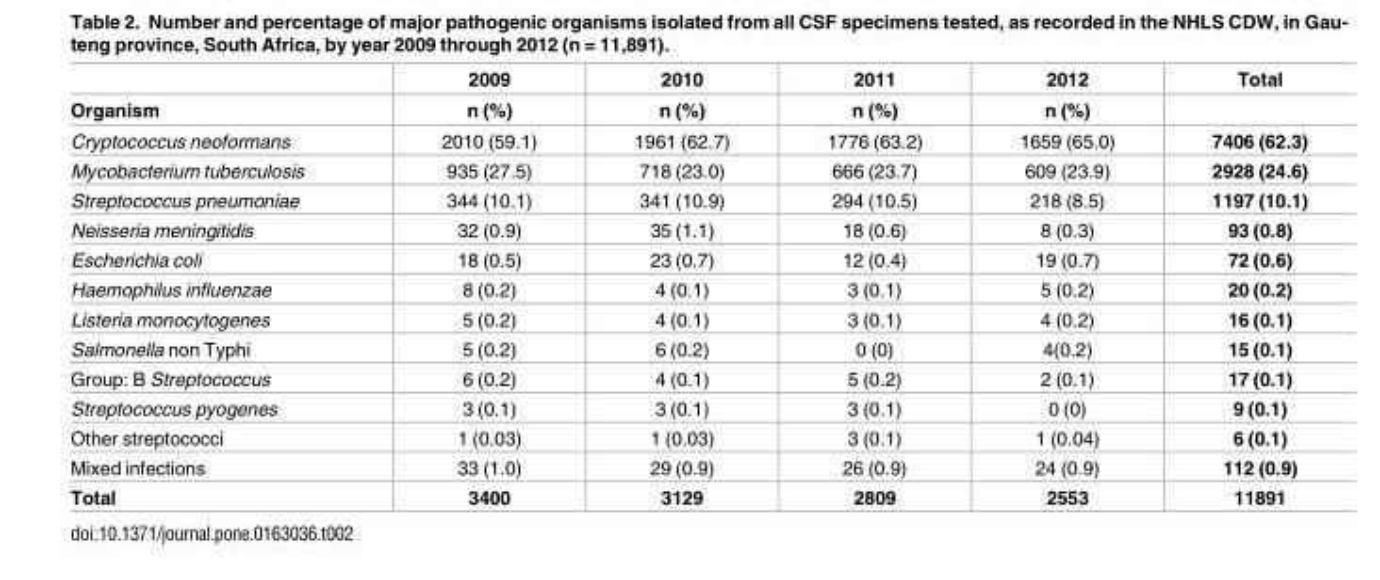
<table><thead><tr><td rowspan="2">Organism</td><td rowspan="2">2009 n (%)</td><td rowspan="2">2010 n (%)</td><td rowspan="2">2011 n (%)</td><td rowspan="2">2012 n (%)</td><td rowspan="2">Total</td></tr><tr></tr></thead><tbody><tr><td>Cryptococcus neoformans</td><td>2010 (59.1)</td><td>1961 (62.7)</td><td>1776 (63.2)</td><td>1659 (65.0)</td><td>7406 (62.3)</td></tr><tr><td>Mycobacterium tuberculosis</td><td>935 (27.5)</td><td>718 (23.0)</td><td>666 (23.7)</td><td>609 (23.9)</td><td>2928 (24.6)</td></tr><tr><td>Streptococcus pneumoniae</td><td>344 (10.1)</td><td>341 (10.9)</td><td>294 (10.5)</td><td>218 (8.5)</td><td>1197 (10.1)</td></tr><tr><td>Neisseria meningitidis</td><td>32 (0.9)</td><td>35 (1.1)</td><td>18 (0.6)</td><td>8 (0.3)</td><td>93 (0.8)</td></tr><tr><td>Escherichia coli</td><td>18 (0.5)</td><td>23 (0.7)</td><td>12 (0.4)</td><td>19 (0.7)</td><td>72 (0.6)</td></tr><tr><td>Haemophilus influenzae</td><td>8 (0.2)</td><td>4 (0.1)</td><td>3 (0.1)</td><td>5 (0.2)</td><td>20 (0.2)</td></tr><tr><td>Listeria monocytogenes</td><td>5 (0.2)</td><td>4 (0.1)</td><td>3 (0.1)</td><td>4 (0.2)</td><td>16 (0.1)</td></tr><tr><td>Salmonella non Typhi</td><td>5 (0.2)</td><td>6 (0.2)</td><td>0 (0)</td><td>4(0.2)</td><td>15 (0.1)</td></tr><tr><td>Group: B Streptococcus</td><td>6 (0.2)</td><td>4 (0.1)</td><td>5 (0.2)</td><td>2 (0.1)</td><td>17 (0.1)</td></tr><tr><td>Streptococcus pyogenes</td><td>3 (0.1)</td><td>3 (0.1)</td><td>3 (0.1)</td><td>0 (0)</td><td>9 (0.1)</td></tr><tr><td>Other streptococci</td><td>1 (0.03)</td><td>1 (0.03)</td><td>3 (0.1)</td><td>1 (0.04)</td><td>6 (0.1)</td></tr><tr><td>Mixed infections</td><td>33 (1.0)</td><td>29 (0.9)</td><td>26 (0.9)</td><td>24 (0.9)</td><td>112 (0.9)</td></tr><tr><td>Total</td><td>3400</td><td>3129</td><td>2809</td><td>2553</td><td>11891</td></tr></tbody></table>